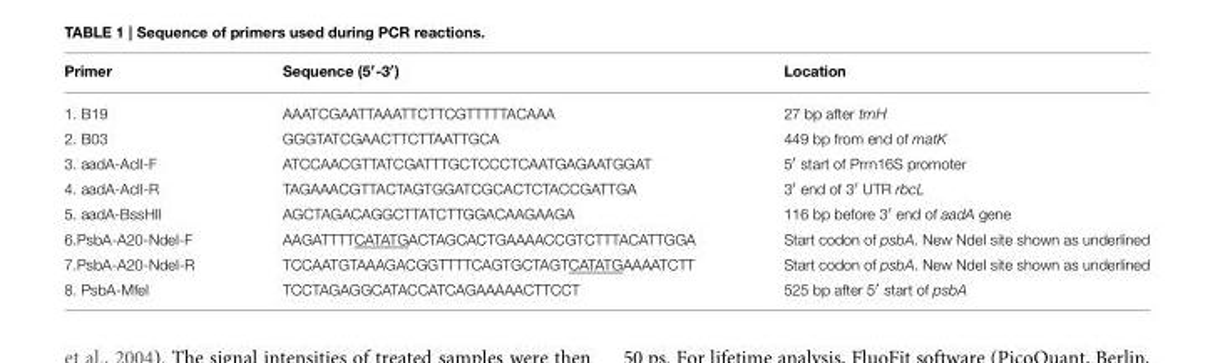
<table><thead><tr><td>Primer</td><td>Sequence (5′-3′)</td><td>Location</td></tr></thead><tbody><tr><td>1. B19</td><td>AAATCGAATTAAATTCTTCGTTTTTACAAA</td><td>27 bp after trnH</td></tr><tr><td>2. B03</td><td>GGGTATCGAACTTCTTAATTGCA</td><td>449 bp from end of matK</td></tr><tr><td>3. aadA-AclI-F</td><td>ATCCAACGTTATCGATTTGCTCCCTCAATGAGAATGGAT</td><td>5′ start of Prrn16S promoter</td></tr><tr><td>4. aadA-AclI-R</td><td>TAGAAACGTTACTAGTGGATCGCACTCTACCGATTGA</td><td>3′ end of 3′ UTR rbcL</td></tr><tr><td>5. aadA-BssHII</td><td>AGCTAGACAGGCTTATCTTGGACAAGAAGA</td><td>116 bp before 3′ end of aadA gene</td></tr><tr><td>6.PsbA-A20-NdeI-F</td><td>AAGATTTTCATATGACTAGCACTGAAAACCGTCTTTACATTGGA</td><td>Start codon of psbA. New NdeI site shown as underlined</td></tr><tr><td>7.PsbA-A20-NdeI-R</td><td>TCCAATGTAAAGACGGTTTTCAGTGCTAGTCATATGAAAATCTT</td><td>Start codon of psbA. New NdeI site shown as underlined</td></tr><tr><td>8. PsbA-MfeI</td><td>TCCTAGAGGCATACCATCAGAAAAACTTCCT</td><td>525 bp after 5′ start of psbA</td></tr></tbody></table>